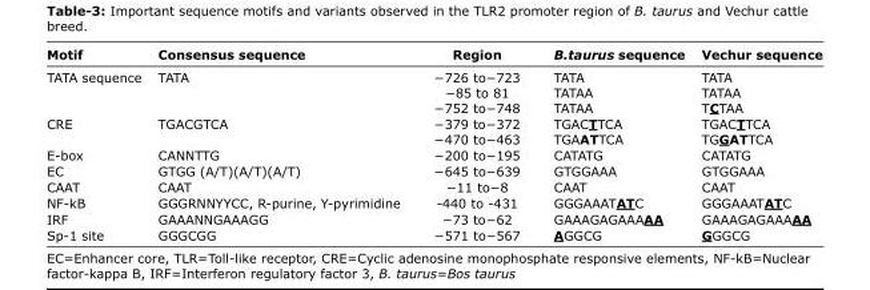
<table><thead><tr><td>Motif</td><td>Consensus sequence</td><td>Region</td><td>B.taurus sequence</td><td>Vechur sequence</td></tr></thead><tbody><tr><td>TATA sequence</td><td>TATA</td><td>−726 to−723 −85 to 81 −752 to−748</td><td>TATA TATAA TATAA</td><td>TATA TATAA TCTAA</td></tr><tr><td>CRE</td><td>TGACGTCA</td><td>−379 to−372 −470 to−463</td><td>TGACTTCA TGAATTCA</td><td>TGACTTCA TGGATTCA</td></tr><tr><td>E-box</td><td>CANNTTG</td><td>−200 to−195</td><td>CATATG</td><td>CATATG</td></tr><tr><td>EC</td><td>GTGG (A/T)(A/T)(A/T)</td><td>−645 to−639</td><td>GTGGAAA</td><td>GTGGAAA</td></tr><tr><td>CAAT</td><td>CAAT</td><td>−11 to−8</td><td>CAAT</td><td>CAAT</td></tr><tr><td>NF-kB</td><td>GGGRNNYYCC, R-purine, Y-pyrimidine</td><td>-440 to -431</td><td>GGGAAATATC</td><td>GGGAAATATC</td></tr><tr><td>IRF</td><td>GAAANNGAAAGG</td><td>−73 to−62</td><td>GAAAGAGAAAAA</td><td>GAAAGAGAAAAA</td></tr><tr><td>Sp-1 site</td><td>GGGCGG</td><td>−571 to−567</td><td>AGGCG</td><td>GGGCG</td></tr></tbody></table>